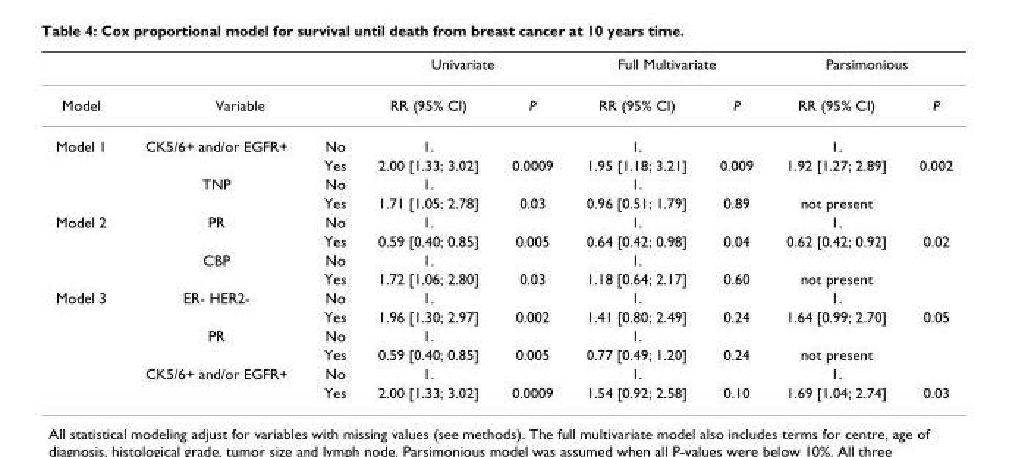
<table><thead><tr><td rowspan="2">Model</td><td></td><td></td><td colspan="2">Univariate</td><td colspan="2">Full Multivariate</td><td colspan="2">Parsimonious</td></tr><tr><td colspan="2">Variable</td><td>RR (95% CI)</td><td>P</td><td>RR (95% CI)</td><td>P</td><td>RR (95% CI)</td><td>P</td></tr></thead><tbody><tr><td rowspan="4">Model 1</td><td>CK5/6+ and/or EGFR+</td><td>No</td><td>1.</td><td></td><td>1.</td><td></td><td>1.</td><td></td></tr><tr><td></td><td>Yes</td><td>2.00 [1.33; 3.02]</td><td>0.0009</td><td>1.95 [1.18; 3.21]</td><td>0.009</td><td>1.92 [1.27; 2.89]</td><td>0.002</td></tr><tr><td>TNP</td><td>No</td><td>1.</td><td></td><td>1.</td><td></td><td></td><td></td></tr><tr><td></td><td>Yes</td><td>1.71 [1.05; 2.78]</td><td>0.03</td><td>0.96 [0.51; 1.79]</td><td>0.89</td><td>not present</td><td></td></tr><tr><td rowspan="4">Model 2</td><td>PR</td><td>No</td><td>1.</td><td></td><td>1.</td><td></td><td>1.</td><td></td></tr><tr><td></td><td>Yes</td><td>0.59 [0.40; 0.85]</td><td>0.005</td><td>0.64 [0.42; 0.98]</td><td>0.04</td><td>0.62 [0.42; 0.92]</td><td>0.02</td></tr><tr><td>CBP</td><td>No</td><td>1.</td><td></td><td>1.</td><td></td><td></td><td></td></tr><tr><td></td><td>Yes</td><td>1.72 [1.06; 2.80]</td><td>0.03</td><td>1.18 [0.64; 2.17]</td><td>0.60</td><td>not present</td><td></td></tr><tr><td rowspan="6">Model 3</td><td>ER- HER2-</td><td>No</td><td>1.</td><td></td><td>1.</td><td></td><td>1.</td><td></td></tr><tr><td></td><td>Yes</td><td>1.96 [1.30; 2.97]</td><td>0.002</td><td>1.41 [0.80; 2.49]</td><td>0.24</td><td>1.64 [0.99; 2.70]</td><td>0.05</td></tr><tr><td>PR</td><td>No</td><td>1.</td><td></td><td>1.</td><td></td><td></td><td></td></tr><tr><td></td><td>Yes</td><td>0.59 [0.40; 0.85]</td><td>0.005</td><td>0.77 [0.49; 1.20]</td><td>0.24</td><td>not present</td><td></td></tr><tr><td>CK5/6+ and/or EGFR+</td><td>No</td><td>1.</td><td></td><td>1.</td><td></td><td>1.</td><td></td></tr><tr><td></td><td>Yes</td><td>2.00 [1.33; 3.02]</td><td>0.0009</td><td>1.54 [0.92; 2.58]</td><td>0.10</td><td>1.69 [1.04; 2.74]</td><td>0.03</td></tr></tbody></table>